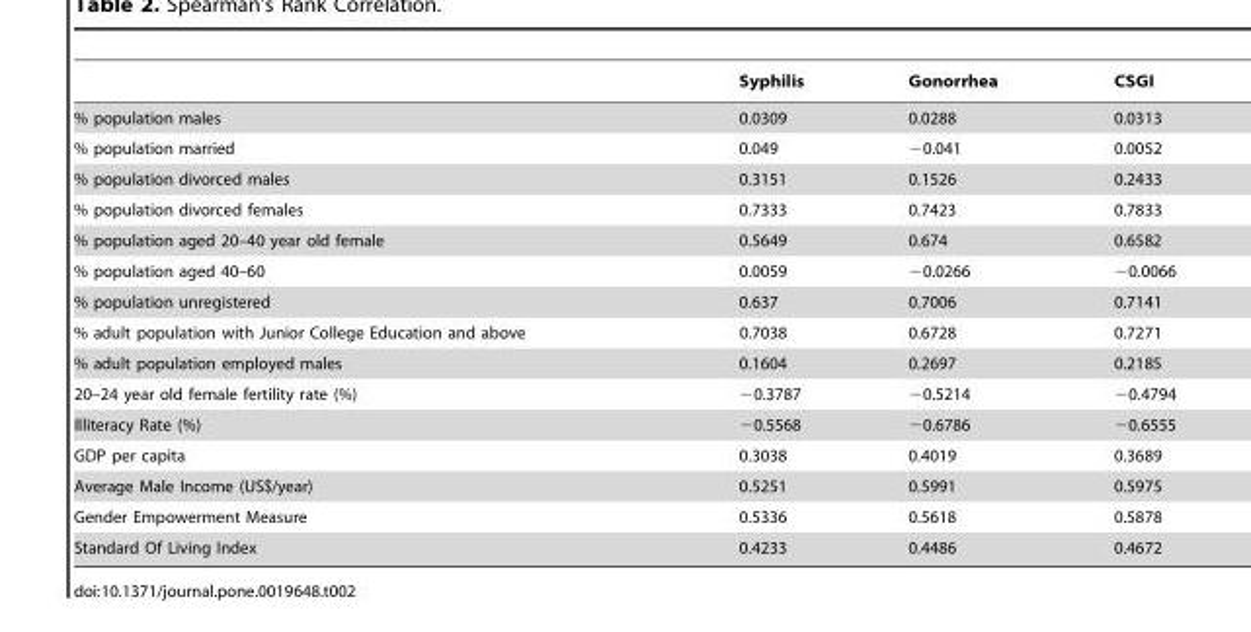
<table><thead><tr><td></td><td>Syphilis</td><td>Gonorrhea</td><td>CSGI</td></tr></thead><tbody><tr><td>% population males</td><td>0.0309</td><td>0.0288</td><td>0.0313</td></tr><tr><td>% population married</td><td>0.049</td><td>−0.041</td><td>0.0052</td></tr><tr><td>% population divorced males</td><td>0.3151</td><td>0.1526</td><td>0.2433</td></tr><tr><td>% population divorced females</td><td>0.7333</td><td>0.7423</td><td>0.7833</td></tr><tr><td>% population aged 20–40 year old female</td><td>0.5649</td><td>0.674</td><td>0.6582</td></tr><tr><td>% population aged 40–60</td><td>0.0059</td><td>−0.0266</td><td>−0.0066</td></tr><tr><td>% population unregistered</td><td>0.637</td><td>0.7006</td><td>0.7141</td></tr><tr><td>% adult population with Junior College Education and above</td><td>0.7038</td><td>0.6728</td><td>0.7271</td></tr><tr><td>% adult population employed males</td><td>0.1604</td><td>0.2697</td><td>0.2185</td></tr><tr><td>20–24 year old female fertility rate (%)</td><td>−0.3787</td><td>−0.5214</td><td>−0.4794</td></tr><tr><td>Illiteracy Rate (%)</td><td>−0.5568</td><td>−0.6786</td><td>−0.6555</td></tr><tr><td>GDP per capita</td><td>0.3038</td><td>0.4019</td><td>0.3689</td></tr><tr><td>Average Male Income (US$/year)</td><td>0.5251</td><td>0.5991</td><td>0.5975</td></tr><tr><td>Gender Empowerment Measure</td><td>0.5336</td><td>0.5618</td><td>0.5878</td></tr><tr><td>Standard Of Living Index</td><td>0.4233</td><td>0.4486</td><td>0.4672</td></tr></tbody></table>